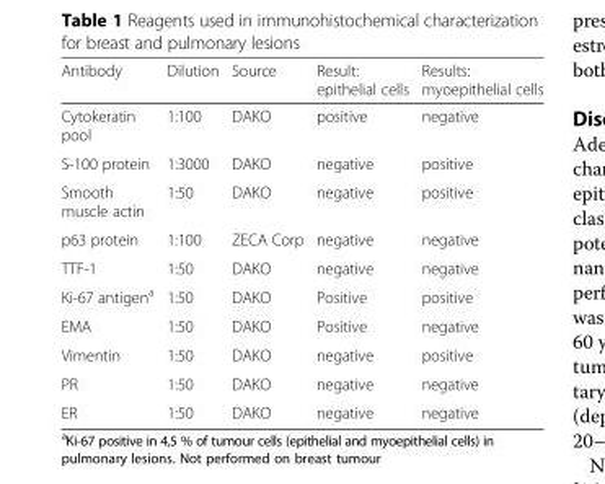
<table><thead><tr><td>Antibody</td><td>Dilution</td><td>Source</td><td>Result: epithelial cells</td><td>Results: myoepithelial cells</td></tr></thead><tbody><tr><td>Cytokeratin pool</td><td>1:100</td><td>DAKO</td><td>positive</td><td>negative</td></tr><tr><td>S-100 protein</td><td>1:3000</td><td>DAKO</td><td>negative</td><td>positive</td></tr><tr><td>Smooth muscle actin</td><td>1:50</td><td>DAKO</td><td>negative</td><td>positive</td></tr><tr><td>p63 protein</td><td>1:100</td><td>ZECA Corp</td><td>negative</td><td>negative</td></tr><tr><td>TTF-1</td><td>1:50</td><td>DAKO</td><td>negative</td><td>negative</td></tr><tr><td>Ki-67 antigen<sup>a</sup></td><td>1:50</td><td>DAKO</td><td>Positive</td><td>positive</td></tr><tr><td>EMA</td><td>1:50</td><td>DAKO</td><td>Positive</td><td>negative</td></tr><tr><td>Vimentin</td><td>1:50</td><td>DAKO</td><td>negative</td><td>positive</td></tr><tr><td>PR</td><td>1:50</td><td>DAKO</td><td>negative</td><td>negative</td></tr><tr><td>ER</td><td>1:50</td><td>DAKO</td><td>negative</td><td>negative</td></tr></tbody></table>